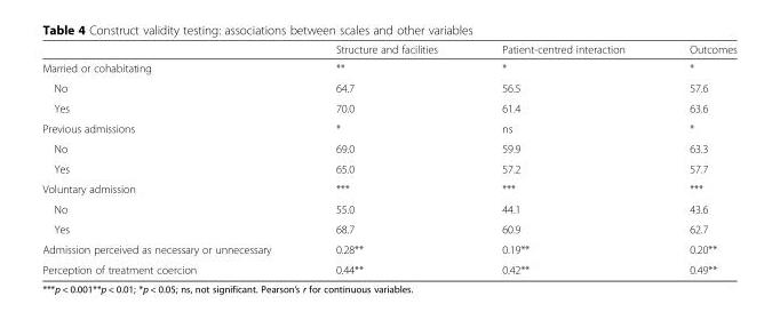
<table><thead><tr><td></td><td>Structure and facilities</td><td>Patient-centred interaction</td><td>Outcomes</td></tr></thead><tbody><tr><td>Married or cohabitating</td><td>**</td><td>*</td><td>*</td></tr><tr><td>No</td><td>64.7</td><td>56.5</td><td>57.6</td></tr><tr><td>Yes</td><td>70.0</td><td>61.4</td><td>63.6</td></tr><tr><td>Previous admissions</td><td>*</td><td>ns</td><td>*</td></tr><tr><td>No</td><td>69.0</td><td>59.9</td><td>63.3</td></tr><tr><td>Yes</td><td>65.0</td><td>57.2</td><td>57.7</td></tr><tr><td>Voluntary admission</td><td>***</td><td>***</td><td>***</td></tr><tr><td>No</td><td>55.0</td><td>44.1</td><td>43.6</td></tr><tr><td>Yes</td><td>68.7</td><td>60.9</td><td>62.7</td></tr><tr><td>Admission perceived as necessary or unnecessary</td><td>0.28**</td><td>0.19**</td><td>0.20**</td></tr><tr><td>Perception of treatment coercion</td><td>0.44**</td><td>0.42**</td><td>0.49**</td></tr></tbody></table>